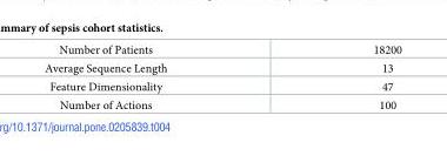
<table><tbody><tr><td>Number of Patients</td><td>18200</td></tr><tr><td>Average Sequence Length</td><td>13</td></tr><tr><td>Feature Dimensionality</td><td>47</td></tr><tr><td>Number of Actions</td><td>100</td></tr></tbody></table>